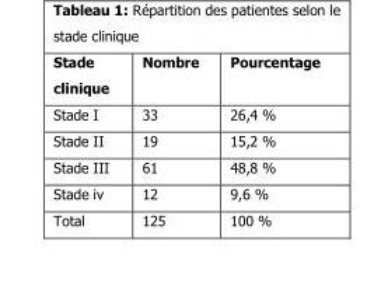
<table><thead><tr><td>Stade clinique</td><td>Nombre</td><td>Pourcentage</td></tr></thead><tbody><tr><td>Stade I</td><td>33</td><td>26,4 %</td></tr><tr><td>Stade II</td><td>19</td><td>15,2 %</td></tr><tr><td>Stade III</td><td>61</td><td>48,8 %</td></tr><tr><td>Stade iv</td><td>12</td><td>9,6 %</td></tr><tr><td>Total</td><td>125</td><td>100 %</td></tr></tbody></table>